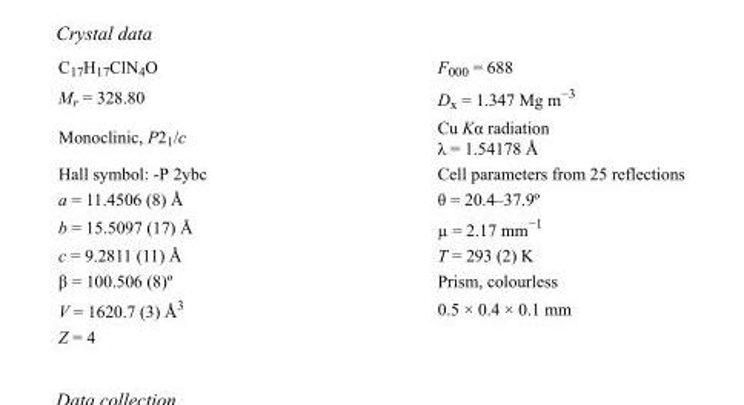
<table><tbody><tr><td>C<sub>17</sub>H<sub>17</sub>ClN<sub>4</sub>O</td><td>F000 = 688</td></tr><tr><td>M<sub>r</sub> = 328.80</td><td>D<sub>x</sub> = 1.347 Mg m<sup>−3</sup></td></tr><tr><td>Monoclinic, P2<sub>1</sub>/c</td><td>Cu Kα radiation λ = 1.54178 Å</td></tr><tr><td>Hall symbol: -P 2ybc</td><td>Cell parameters from 25 reflections</td></tr><tr><td>a = 11.4506 (8) Å</td><td>θ = 20.4–37.9º</td></tr><tr><td>b = 15.5097 (17) Å</td><td>µ = 2.17 mm<sup>−1</sup></td></tr><tr><td>c = 9.2811 (11) Å</td><td>T = 293 (2) K</td></tr><tr><td>β = 100.506 (8)º</td><td>Prism, colourless</td></tr><tr><td>V = 1620.7 (3) Å<sup>3</sup></td><td>0.5 × 0.4 × 0.1 mm</td></tr><tr><td>Z = 4</td><td></td></tr></tbody></table>